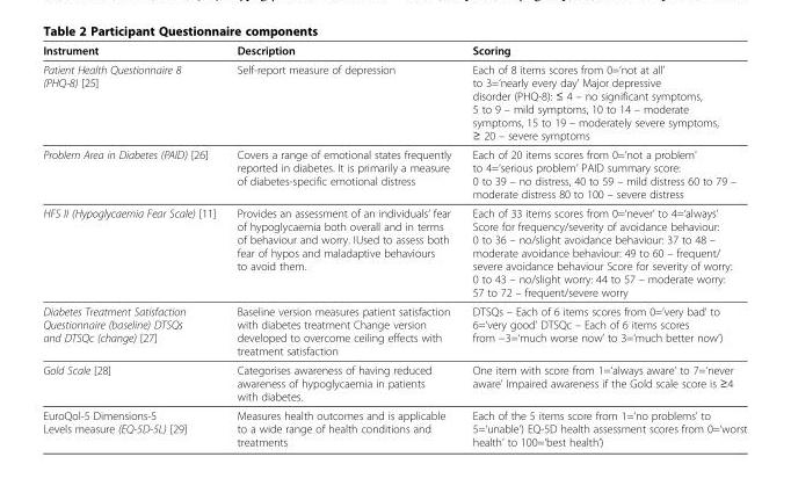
<table><thead><tr><td>Instrument</td><td>Description</td><td>Scoring</td></tr></thead><tbody><tr><td>Patient Health Questionnaire 8 (PHQ-8) [25]</td><td>Self-report measure of depression</td><td>Each of 8 items scores from 0=‘not at all’ to 3=‘nearly every day’ Major depressive disorder (PHQ-8): ≤ 4 – no significant symptoms, 5 to 9 – mild symptoms, 10 to 14 – moderate symptoms, 15 to 19 – moderately severe symptoms, ≥ 20 – severe symptoms</td></tr><tr><td>Problem Area in Diabetes (PAID) [26]</td><td>Covers a range of emotional states frequently reported in diabetes. It is primarily a measure of diabetes-specific emotional distress</td><td>Each of 20 items scores from 0=‘not a problem’ to 4=‘serious problem’ PAID summary score: 0 to 39 – no distress, 40 to 59 – mild distress 60 to 79 – moderate distress 80 to 100 – severe distress</td></tr><tr><td>HFS II (Hypoglycaemia Fear Scale) [11]</td><td>Provides an assessment of an individuals’ fear of hypoglycaemia both overall and in terms of behaviour and worry. IUsed to assess both fear of hypos and maladaptive behaviours to avoid them.</td><td>Each of 33 items scores from 0=‘never’ to 4=‘always’ Score for frequency/severity of avoidance behaviour: 0 to 36 – no/slight avoidance behaviour: 37 to 48 – moderate avoidance behaviour: 49 to 60 – frequent/ severe avoidance behaviour Score for severity of worry: 0 to 43 – no/slight worry: 44 to 57 – moderate worry: 57 to 72 – frequent/severe worry</td></tr><tr><td>Diabetes Treatment Satisfaction Questionnaire (baseline) DTSQs and DTSQc (change) [27]</td><td>Baseline version measures patient satisfaction with diabetes treatment Change version developed to overcome ceiling effects with treatment satisfaction</td><td>DTSQs – Each of 6 items scores from 0=‘very bad’ to 6=‘very good’ DTSQc – Each of 6 items scores from −3=‘much worse now’ to 3=‘much better now’)</td></tr><tr><td>Gold Scale [28]</td><td>Categorises awareness of having reduced awareness of hypoglycaemia in patients with diabetes.</td><td>One item with score from 1=‘always aware’ to 7=‘never aware’ Impaired awareness if the Gold scale score is ≥4</td></tr><tr><td>EuroQol-5 Dimensions-5 Levels measure (EQ-5D-5L) [29]</td><td>Measures health outcomes and is applicable to a wide range of health conditions and treatments</td><td>Each of the 5 items score from 1=‘no problems’ to 5=‘unable’) EQ-5D health assessment scores from 0=‘worst health’ to 100=‘best health’)</td></tr></tbody></table>